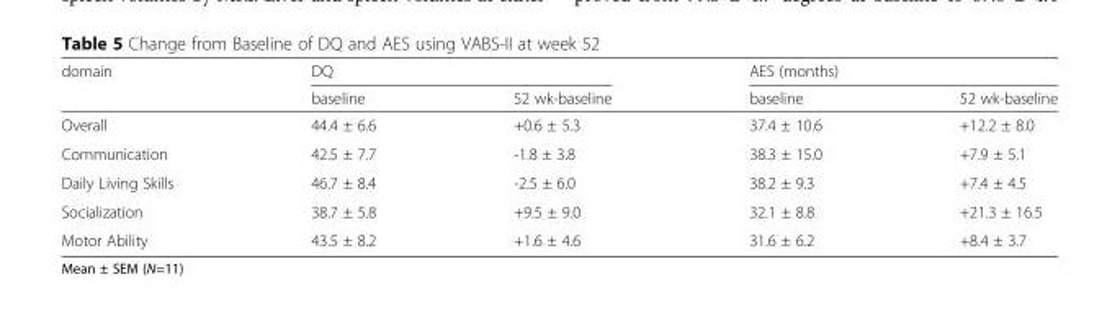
<table><thead><tr><td rowspan="2">domain</td><td colspan="2">DQ</td><td colspan="2">AES (months)</td></tr><tr><td>baseline</td><td>52 wk-baseline</td><td>baseline</td><td>52 wk-baseline</td></tr></thead><tbody><tr><td>Overall</td><td>44.4 ± 6.6</td><td>+0.6 ± 5.3</td><td>37.4 ± 10.6</td><td>+12.2 ± 8.0</td></tr><tr><td>Communication</td><td>42.5 ± 7.7</td><td>-1.8 ± 3.8</td><td>38.3 ± 15.0</td><td>+7.9 ± 5.1</td></tr><tr><td>Daily Living Skills</td><td>46.7 ± 8.4</td><td>-2.5 ± 6.0</td><td>38.2 ± 9.3</td><td>+7.4 ± 4.5</td></tr><tr><td>Socialization</td><td>38.7 ± 5.8</td><td>+9.5 ± 9.0</td><td>32.1 ± 8.8</td><td>+21.3 ± 16.5</td></tr><tr><td>Motor Ability</td><td>43.5 ± 8.2</td><td>+1.6 ± 4.6</td><td>31.6 ± 6.2</td><td>+8.4 ± 3.7</td></tr></tbody></table>